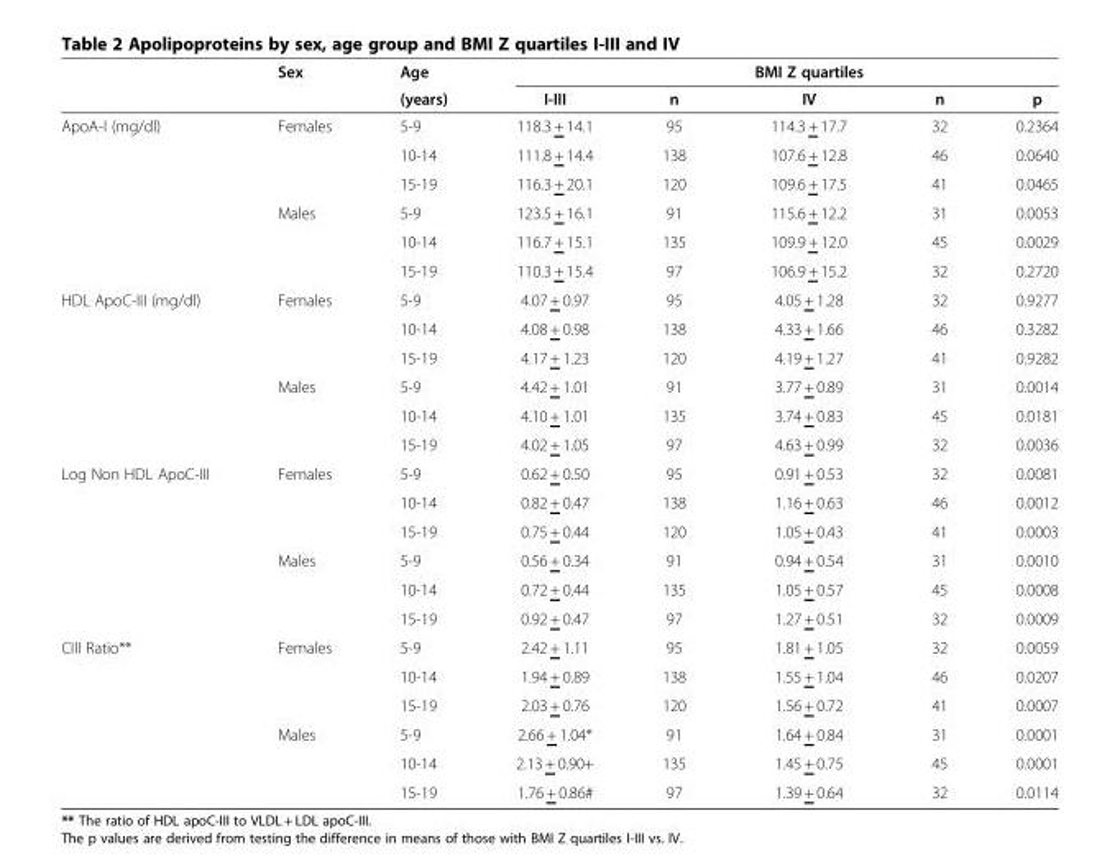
<table><thead><tr><td rowspan="2"></td><td rowspan="2">Sex</td><td rowspan="2">Age (years)</td><td colspan="5">BMI Z quartiles</td></tr><tr><td>I-III</td><td>n</td><td>IV</td><td>n</td><td>p</td></tr></thead><tbody><tr><td rowspan="6">ApoA-I (mg/dl)</td><td>Females</td><td>5-9</td><td>118.3 + 14.1</td><td>95</td><td>114.3 + 17.7</td><td>32</td><td>0.2364</td></tr><tr><td></td><td>10-14</td><td>111.8 + 14.4</td><td>138</td><td>107.6 + 12.8</td><td>46</td><td>0.0640</td></tr><tr><td></td><td>15-19</td><td>116.3 + 20.1</td><td>120</td><td>109.6 + 17.5</td><td>41</td><td>0.0465</td></tr><tr><td>Males</td><td>5-9</td><td>123.5 + 16.1</td><td>91</td><td>115.6 + 12.2</td><td>31</td><td>0.0053</td></tr><tr><td></td><td>10-14</td><td>116.7 + 15.1</td><td>135</td><td>109.9 + 12.0</td><td>45</td><td>0.0029</td></tr><tr><td></td><td>15-19</td><td>110.3 + 15.4</td><td>97</td><td>106.9 + 15.2</td><td>32</td><td>0.2720</td></tr><tr><td rowspan="6">HDL ApoC-III (mg/dl)</td><td>Females</td><td>5-9</td><td>4.07 + 0.97</td><td>95</td><td>4.05 + 1.28</td><td>32</td><td>0.9277</td></tr><tr><td></td><td>10-14</td><td>4.08 + 0.98</td><td>138</td><td>4.33 + 1.66</td><td>46</td><td>0.3282</td></tr><tr><td></td><td>15-19</td><td>4.17 + 1.23</td><td>120</td><td>4.19 + 1.27</td><td>41</td><td>0.9282</td></tr><tr><td>Males</td><td>5-9</td><td>4.42 + 1.01</td><td>91</td><td>3.77 + 0.89</td><td>31</td><td>0.0014</td></tr><tr><td></td><td>10-14</td><td>4.10 + 1.01</td><td>135</td><td>3.74 + 0.83</td><td>45</td><td>0.0181</td></tr><tr><td></td><td>15-19</td><td>4.02 + 1.05</td><td>97</td><td>4.63 + 0.99</td><td>32</td><td>0.0036</td></tr><tr><td rowspan="6">Log Non HDL ApoC-III</td><td>Females</td><td>5-9</td><td>0.62 + 0.50</td><td>95</td><td>0.91 + 0.53</td><td>32</td><td>0.0081</td></tr><tr><td></td><td>10-14</td><td>0.82 + 0.47</td><td>138</td><td>1.16 + 0.63</td><td>46</td><td>0.0012</td></tr><tr><td></td><td>15-19</td><td>0.75 + 0.44</td><td>120</td><td>1.05 + 0.43</td><td>41</td><td>0.0003</td></tr><tr><td>Males</td><td>5-9</td><td>0.56 + 0.34</td><td>91</td><td>0.94 + 0.54</td><td>31</td><td>0.0010</td></tr><tr><td></td><td>10-14</td><td>0.72 + 0.44</td><td>135</td><td>1.05 + 0.57</td><td>45</td><td>0.0008</td></tr><tr><td></td><td>15-19</td><td>0.92 + 0.47</td><td>97</td><td>1.27 + 0.51</td><td>32</td><td>0.0009</td></tr><tr><td rowspan="6">CIII Ratio**</td><td>Females</td><td>5-9</td><td>2.42 + 1.11</td><td>95</td><td>1.81 + 1.05</td><td>32</td><td>0.0059</td></tr><tr><td></td><td>10-14</td><td>1.94 + 0.89</td><td>138</td><td>1.55 + 1.04</td><td>46</td><td>0.0207</td></tr><tr><td></td><td>15-19</td><td>2.03 + 0.76</td><td>120</td><td>1.56 + 0.72</td><td>41</td><td>0.0007</td></tr><tr><td>Males</td><td>5-9</td><td>2.66 + 1.04*</td><td>91</td><td>1.64 + 0.84</td><td>31</td><td>0.0001</td></tr><tr><td></td><td>10-14</td><td>2.13 + 0.90+</td><td>135</td><td>1.45 + 0.75</td><td>45</td><td>0.0001</td></tr><tr><td></td><td>15-19</td><td>1.76 + 0.86#</td><td>97</td><td>1.39 + 0.64</td><td>32</td><td>0.0114</td></tr></tbody></table>